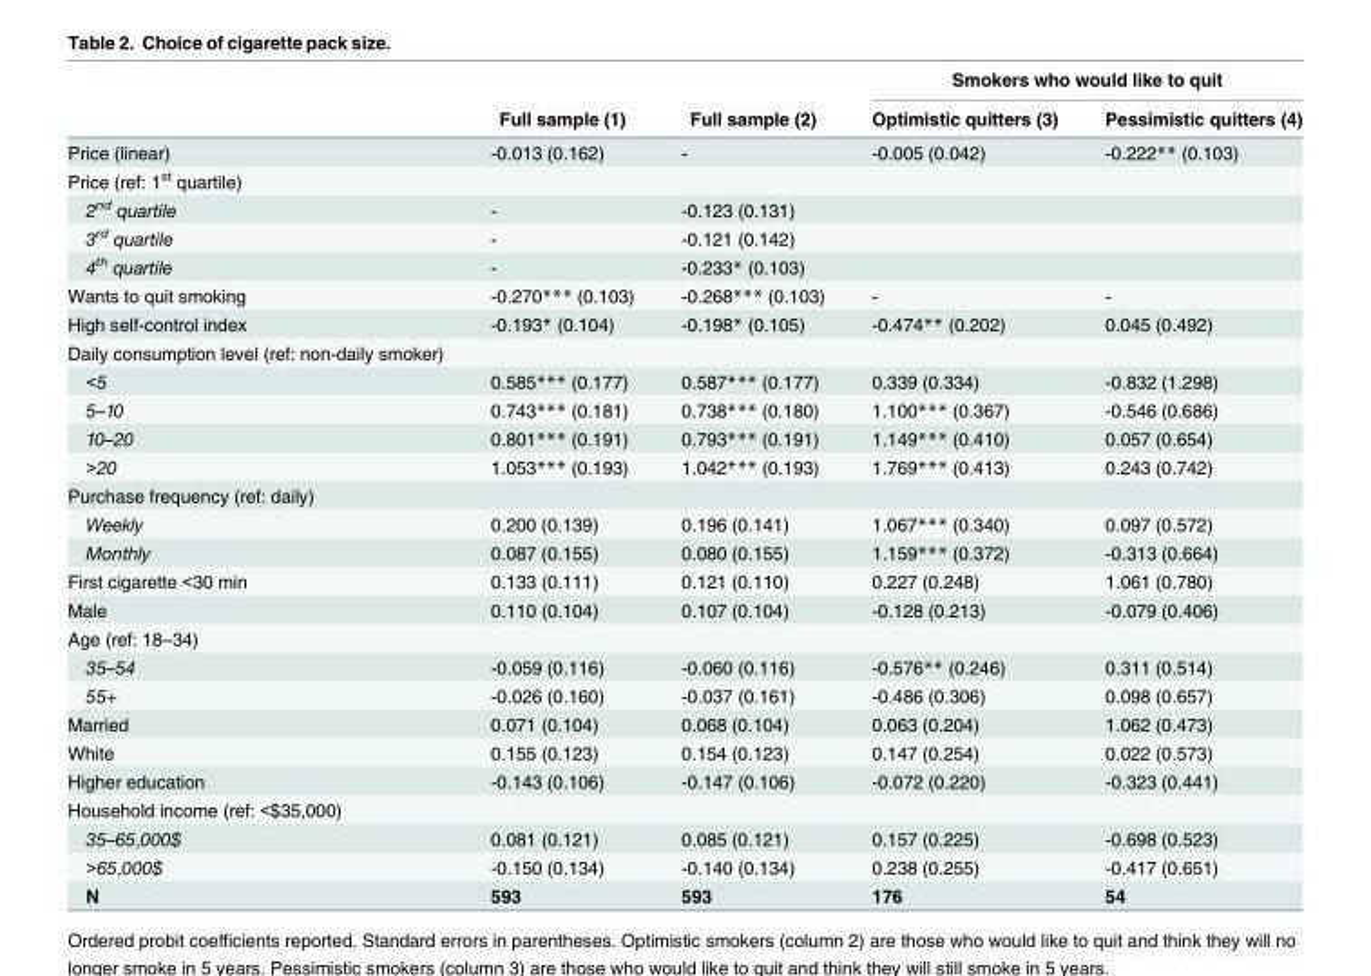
<table><thead><tr><td rowspan="2"></td><td rowspan="2">Full sample (1)</td><td rowspan="2">Full sample (2)</td><td colspan="2">Smokers who would like to quit</td></tr><tr><td>Optimistic quitters (3)</td><td>Pessimistic quitters (4)</td></tr></thead><tbody><tr><td>Price (linear)</td><td>-0.013 (0.162)</td><td>-</td><td>-0.005 (0.042)</td><td>-0.222** (0.103)</td></tr><tr><td colspan="5">Price (ref: 1<sup>st</sup> quartile)</td></tr><tr><td>2<sup>nd</sup> quartile</td><td>-</td><td>-0.123 (0.131)</td><td></td><td></td></tr><tr><td>3<sup>rd</sup> quartile</td><td>-</td><td>-0.121 (0.142)</td><td></td><td></td></tr><tr><td>4<sup>th</sup> quartile</td><td>-</td><td>-0.233* (0.103)</td><td></td><td></td></tr><tr><td>Wants to quit smoking</td><td>-0.270*** (0.103)</td><td>-0.268*** (0.103)</td><td>-</td><td>-</td></tr><tr><td>High self-control index</td><td>-0.193* (0.104)</td><td>-0.198* (0.105)</td><td>-0.474** (0.202)</td><td>0.045 (0.492)</td></tr><tr><td colspan="5">Daily consumption level (ref: non-daily smoker)</td></tr><tr><td>&lt;5</td><td>0.585*** (0.177)</td><td>0.587*** (0.177)</td><td>0.339 (0.334)</td><td>-0.832 (1.298)</td></tr><tr><td>5–10</td><td>0.743*** (0.181)</td><td>0.738*** (0.180)</td><td>1.100*** (0.367)</td><td>-0.546 (0.686)</td></tr><tr><td>10–20</td><td>0.801*** (0.191)</td><td>0.793*** (0.191)</td><td>1.149*** (0.410)</td><td>0.057 (0.654)</td></tr><tr><td>&gt;20</td><td>1.053*** (0.193)</td><td>1.042*** (0.193)</td><td>1.769*** (0.413)</td><td>0.243 (0.742)</td></tr><tr><td colspan="5">Purchase frequency (ref: daily)</td></tr><tr><td>Weekly</td><td>0.200 (0.139)</td><td>0.196 (0.141)</td><td>1.067*** (0.340)</td><td>0.097 (0.572)</td></tr><tr><td>Monthly</td><td>0.087 (0.155)</td><td>0.080 (0.155)</td><td>1.159*** (0.372)</td><td>-0.313 (0.664)</td></tr><tr><td>First cigarette &lt;30 min</td><td>0.133 (0.111)</td><td>0.121 (0.110)</td><td>0.227 (0.248)</td><td>1.061 (0.780)</td></tr><tr><td>Male</td><td>0.110 (0.104)</td><td>0.107 (0.104)</td><td>-0.128 (0.213)</td><td>-0.079 (0.406)</td></tr><tr><td colspan="5">Age (ref: 18–34)</td></tr><tr><td>35–54</td><td>-0.059 (0.116)</td><td>-0.060 (0.116)</td><td>-0.576** (0.246)</td><td>0.311 (0.514)</td></tr><tr><td>55+</td><td>-0.026 (0.160)</td><td>-0.037 (0.161)</td><td>-0.486 (0.306)</td><td>0.098 (0.657)</td></tr><tr><td>Married</td><td>0.071 (0.104)</td><td>0.068 (0.104)</td><td>0.063 (0.204)</td><td>1.062 (0.473)</td></tr><tr><td>White</td><td>0.155 (0.123)</td><td>0.154 (0.123)</td><td>0.147 (0.254)</td><td>0.022 (0.573)</td></tr><tr><td>Higher education</td><td>-0.143 (0.106)</td><td>-0.147 (0.106)</td><td>-0.072 (0.220)</td><td>-0.323 (0.441)</td></tr><tr><td colspan="5">Household income (ref: &lt;$35,000)</td></tr><tr><td>35–65,000$</td><td>0.081 (0.121)</td><td>0.085 (0.121)</td><td>0.157 (0.225)</td><td>-0.698 (0.523)</td></tr><tr><td>&gt;65,000$</td><td>-0.150 (0.134)</td><td>-0.140 (0.134)</td><td>0.238 (0.255)</td><td>-0.417 (0.651)</td></tr><tr><td>N</td><td>593</td><td>593</td><td>176</td><td>54</td></tr></tbody></table>